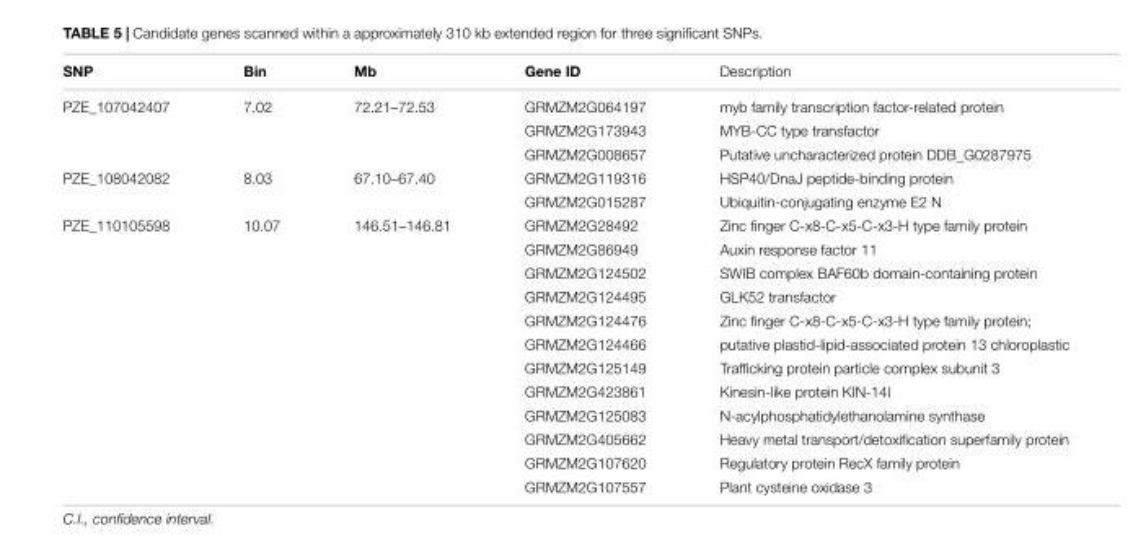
<table><thead><tr><td>SNP</td><td>Bin</td><td>Mb</td><td>Gene ID</td><td>Description</td></tr></thead><tbody><tr><td rowspan="3">PZE_107042407</td><td>7.02</td><td>72.21–72.53</td><td>GRMZM2G064197</td><td>myb family transcription factor-related protein</td></tr><tr><td></td><td></td><td>GRMZM2G173943</td><td>MYB-CC type transfactor</td></tr><tr><td></td><td></td><td>GRMZM2G008657</td><td>Putative uncharacterized protein DDB_G0287975</td></tr><tr><td rowspan="2">PZE_108042082</td><td>8.03</td><td>67.10–67.40</td><td>GRMZM2G119316</td><td>HSP40/DnaJ peptide-binding protein</td></tr><tr><td></td><td></td><td>GRMZM2G015287</td><td>Ubiquitin-conjugating enzyme E2 N</td></tr><tr><td rowspan="12">PZE_110105598</td><td>10.07</td><td>146.51–146.81</td><td>GRMZM2G28492</td><td>Zinc finger C-x8-C-x5-C-x3-H type family protein</td></tr><tr><td></td><td></td><td>GRMZM2G86949</td><td>Auxin response factor 11</td></tr><tr><td></td><td></td><td>GRMZM2G124502</td><td>SWIB complex BAF60b domain-containing protein</td></tr><tr><td></td><td></td><td>GRMZM2G124495</td><td>GLK52 transfactor</td></tr><tr><td></td><td></td><td>GRMZM2G124476</td><td>Zinc finger C-x8-C-x5-C-x3-H type family protein;</td></tr><tr><td></td><td></td><td>GRMZM2G124466</td><td>putative plastid-lipid-associated protein 13 chloroplastic</td></tr><tr><td></td><td></td><td>GRMZM2G125149</td><td>Trafficking protein particle complex subunit 3</td></tr><tr><td></td><td></td><td>GRMZM2G423861</td><td>Kinesin-like protein KIN-14I</td></tr><tr><td></td><td></td><td>GRMZM2G125083</td><td>N-acylphosphatidylethanolamine synthase</td></tr><tr><td></td><td></td><td>GRMZM2G405662</td><td>Heavy metal transport/detoxification superfamily protein</td></tr><tr><td></td><td></td><td>GRMZM2G107620</td><td>Regulatory protein RecX family protein</td></tr><tr><td></td><td></td><td>GRMZM2G107557</td><td>Plant cysteine oxidase 3</td></tr></tbody></table>